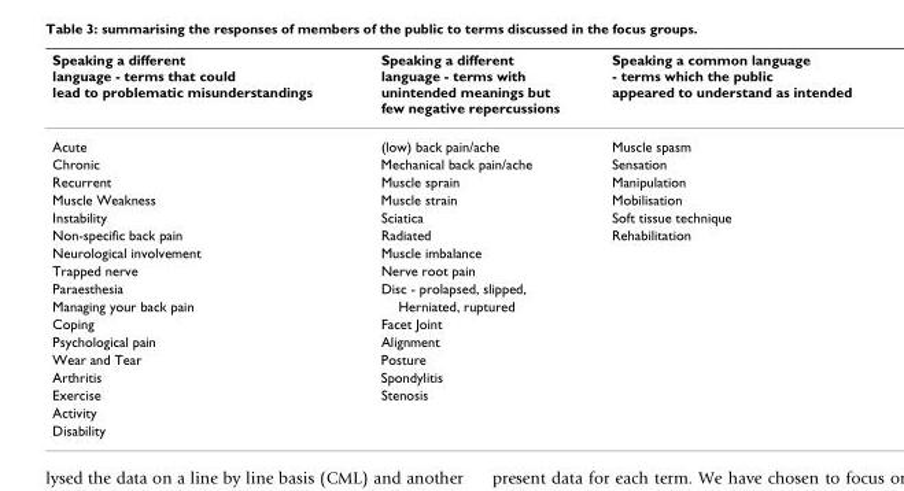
<table><thead><tr><td>Speaking a different language - terms that could lead to problematic misunderstandings</td><td>Speaking a different language - terms with unintended meanings but few negative repercussions</td><td>Speaking a common language - terms which the public appeared to understand as intended</td></tr></thead><tbody><tr><td>Acute</td><td>(low) back pain/ache</td><td>Muscle spasm</td></tr><tr><td>Chronic</td><td>Mechanical back pain/ache</td><td>Sensation</td></tr><tr><td>Recurrent</td><td>Muscle sprain</td><td>Manipulation</td></tr><tr><td>Muscle Weakness</td><td>Muscle strain</td><td>Mobilisation</td></tr><tr><td>Instability</td><td>Sciatica</td><td>Soft tissue technique</td></tr><tr><td>Non-specific back pain</td><td>Radiated</td><td>Rehabilitation</td></tr><tr><td>Neurological involvement</td><td>Muscle imbalance</td><td></td></tr><tr><td>Trapped nerve</td><td>Nerve root pain</td><td></td></tr><tr><td>Paraesthesia</td><td>Disc - prolapsed, slipped,</td><td></td></tr><tr><td>Managing your back pain</td><td>Herniated, ruptured</td><td></td></tr><tr><td>Coping</td><td>Facet Joint</td><td></td></tr><tr><td>Psychological pain</td><td>Alignment</td><td></td></tr><tr><td>Wear and Tear</td><td>Posture</td><td></td></tr><tr><td>Arthritis</td><td>Spondylitis</td><td></td></tr><tr><td>Exercise</td><td>Stenosis</td><td></td></tr><tr><td colspan="3">Activity</td></tr><tr><td>Disability</td><td></td><td></td></tr></tbody></table>